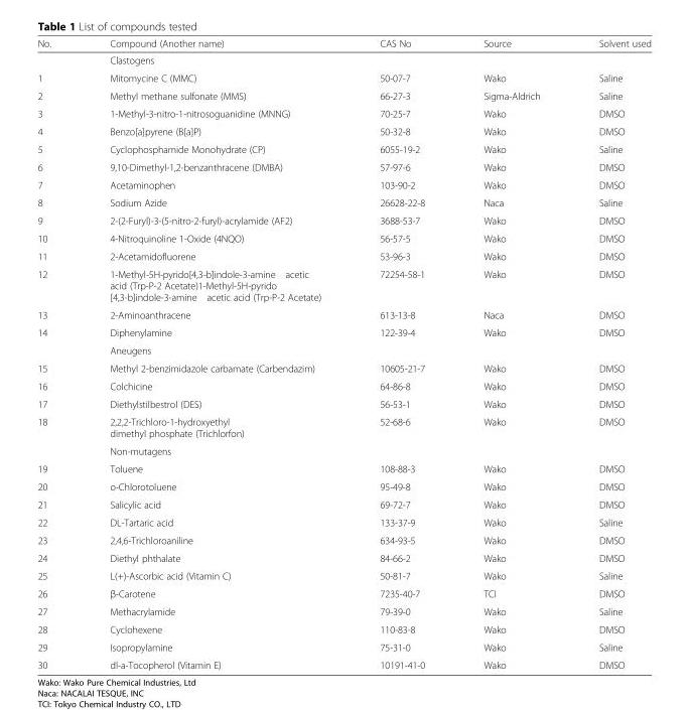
<table><thead><tr><td>No.</td><td>Compound (Another name)</td><td>CAS No</td><td>Source</td><td>Solvent used</td></tr></thead><tbody><tr><td></td><td>Clastogens</td><td></td><td></td><td></td></tr><tr><td>1</td><td>Mitomycine C (MMC)</td><td>50-07-7</td><td>Wako</td><td>Saline</td></tr><tr><td>2</td><td>Methyl methane sulfonate (MMS)</td><td>66-27-3</td><td>Sigma-Aldrich</td><td>Saline</td></tr><tr><td>3</td><td>1-Methyl-3-nitro-1-nitrosoguanidine (MNNG)</td><td>70-25-7</td><td>Wako</td><td>DMSO</td></tr><tr><td>4</td><td>Benzo[a]pyrene (B[a]P)</td><td>50-32-8</td><td>Wako</td><td>DMSO</td></tr><tr><td>5</td><td>Cyclophosphamide Monohydrate (CP)</td><td>6055-19-2</td><td>Wako</td><td>Saline</td></tr><tr><td>6</td><td>9,10-Dimethyl-1,2-benzanthracene (DMBA)</td><td>57-97-6</td><td>Wako</td><td>DMSO</td></tr><tr><td>7</td><td>Acetaminophen</td><td>103-90-2</td><td>Wako</td><td>DMSO</td></tr><tr><td>8</td><td>Sodium Azide</td><td>26628-22-8</td><td>Naca</td><td>Saline</td></tr><tr><td>9</td><td>2-(2-Furyl)-3-(5-nitro-2-furyl)-acrylamide (AF2)</td><td>3688-53-7</td><td>Wako</td><td>DMSO</td></tr><tr><td>10</td><td>4-Nitroquinoline 1-Oxide (4NQO)</td><td>56-57-5</td><td>Wako</td><td>DMSO</td></tr><tr><td>11</td><td>2-Acetamidofluorene</td><td>53-96-3</td><td>Wako</td><td>DMSO</td></tr><tr><td>12</td><td>1-Methyl-5H-pyrido[4,3-b]indole-3-amine acetic acid (Trp-P-2 Acetate)1-Methyl-5H-pyrido [4,3-b]indole-3-amine acetic acid (Trp-P-2 Acetate)</td><td>72254-58-1</td><td>Wako</td><td>DMSO</td></tr><tr><td>13</td><td>2-Aminoanthracene</td><td>613-13-8</td><td>Naca</td><td>DMSO</td></tr><tr><td rowspan="2">14</td><td>Diphenylamine</td><td>122-39-4</td><td>Wako</td><td>DMSO</td></tr><tr><td>Aneugens</td><td></td><td></td><td></td></tr><tr><td>15</td><td>Methyl 2-benzimidazole carbamate (Carbendazim)</td><td>10605-21-7</td><td>Wako</td><td>DMSO</td></tr><tr><td>16</td><td>Colchicine</td><td>64-86-8</td><td>Wako</td><td>DMSO</td></tr><tr><td>17</td><td>Diethylstilbestrol (DES)</td><td>56-53-1</td><td>Wako</td><td>DMSO</td></tr><tr><td rowspan="2">18</td><td>2,2,2-Trichloro-1-hydroxyethyl dimethyl phosphate (Trichlorfon)</td><td>52-68-6</td><td>Wako</td><td>DMSO</td></tr><tr><td>Non-mutagens</td><td></td><td></td><td></td></tr><tr><td>19</td><td>Toluene</td><td>108-88-3</td><td>Wako</td><td>DMSO</td></tr><tr><td>20</td><td>o-Chlorotoluene</td><td>95-49-8</td><td>Wako</td><td>DMSO</td></tr><tr><td>21</td><td>Salicylic acid</td><td>69-72-7</td><td>Wako</td><td>DMSO</td></tr><tr><td>22</td><td>DL-Tartaric acid</td><td>133-37-9</td><td>Wako</td><td>Saline</td></tr><tr><td>23</td><td>2,4,6-Trichloroaniline</td><td>634-93-5</td><td>Wako</td><td>DMSO</td></tr><tr><td>24</td><td>Diethyl phthalate</td><td>84-66-2</td><td>Wako</td><td>DMSO</td></tr><tr><td>25</td><td>L(+)-Ascorbic acid (Vitamin C)</td><td>50-81-7</td><td>Wako</td><td>Saline</td></tr><tr><td>26</td><td>β-Carotene</td><td>7235-40-7</td><td>TCI</td><td>DMSO</td></tr><tr><td>27</td><td>Methacrylamide</td><td>79-39-0</td><td>Wako</td><td>Saline</td></tr><tr><td>28</td><td>Cyclohexene</td><td>110-83-8</td><td>Wako</td><td>DMSO</td></tr><tr><td>29</td><td>Isopropylamine</td><td>75-31-0</td><td>Wako</td><td>Saline</td></tr><tr><td>30</td><td>dl-a-Tocopherol (Vitamin E)</td><td>10191-41-0</td><td>Wako</td><td>DMSO</td></tr></tbody></table>